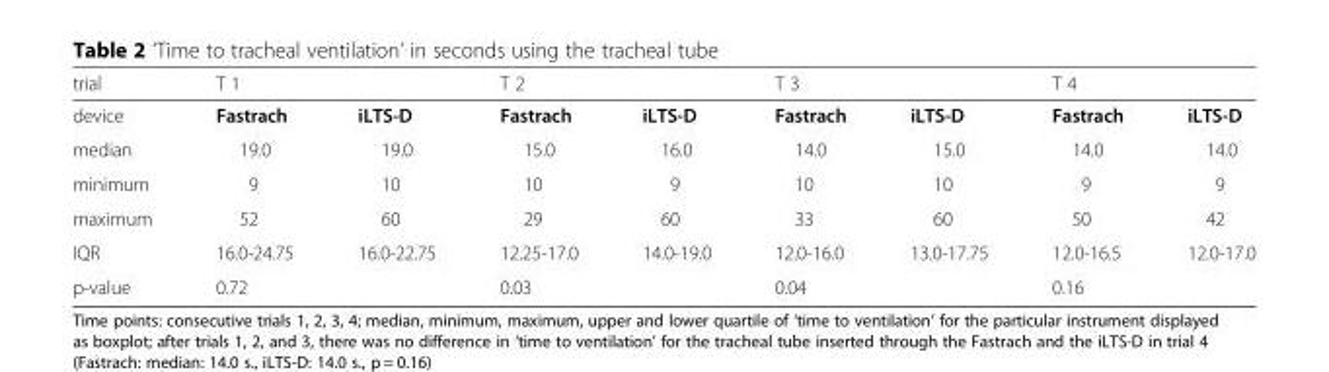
<table><thead><tr><td rowspan="2">trial device</td><td colspan="2">T 1</td><td colspan="2">T 2</td><td colspan="2">T 3</td><td colspan="2">T 4</td></tr><tr><td>Fastrach</td><td>iLTS-D</td><td>Fastrach</td><td>iLTS-D</td><td>Fastrach</td><td>iLTS-D</td><td>Fastrach</td><td>iLTS-D</td></tr></thead><tbody><tr><td>median</td><td>19.0</td><td>19.0</td><td>15.0</td><td>16.0</td><td>14.0</td><td>15.0</td><td>14.0</td><td>14.0</td></tr><tr><td>minimum</td><td>9</td><td>10</td><td>10</td><td>9</td><td>10</td><td>10</td><td>9</td><td>9</td></tr><tr><td>maximum</td><td>52</td><td>60</td><td>29</td><td>60</td><td>33</td><td>60</td><td>50</td><td>42</td></tr><tr><td>IQR</td><td>16.0-24.75</td><td>16.0-22.75</td><td>12.25-17.0</td><td>14.0-19.0</td><td>12.0-16.0</td><td>13.0-17.75</td><td>12.0-16.5</td><td>12.0-17.0</td></tr><tr><td>p-value</td><td colspan="2">0.72</td><td colspan="2">0.03</td><td colspan="2">0.04</td><td colspan="2">0.16</td></tr></tbody></table>